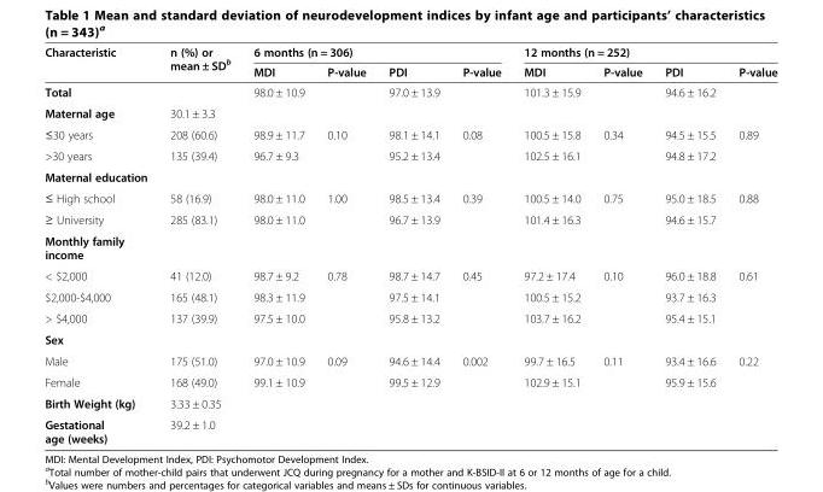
<table><thead><tr><td rowspan="2">Characteristic</td><td rowspan="2">n (%) or mean ± SD<sup>b</sup></td><td colspan="4">6 months (n = 306)</td><td colspan="4">12 months (n = 252)</td></tr><tr><td>MDI</td><td>P-value</td><td>PDI</td><td>P-value</td><td>MDI</td><td>P-value</td><td>PDI</td><td>P-value</td></tr></thead><tbody><tr><td>Total</td><td></td><td>98.0 ± 10.9</td><td></td><td>97.0 ± 13.9</td><td></td><td>101.3 ± 15.9</td><td></td><td>94.6 ± 16.2</td><td></td></tr><tr><td>Maternal age</td><td>30.1 ± 3.3</td><td></td><td></td><td></td><td></td><td></td><td></td><td></td><td></td></tr><tr><td>≤30 years</td><td>208 (60.6)</td><td>98.9 ± 11.7</td><td>0.10</td><td>98.1 ± 14.1</td><td>0.08</td><td>100.5 ± 15.8</td><td>0.34</td><td>94.5 ± 15.5</td><td>0.89</td></tr><tr><td>&gt;30 years</td><td>135 (39.4)</td><td>96.7 ± 9.3</td><td></td><td>95.2 ± 13.4</td><td></td><td>102.5 ± 16.1</td><td></td><td>94.8 ± 17.2</td><td></td></tr><tr><td colspan="10">Maternal education</td></tr><tr><td>≤ High school</td><td>58 (16.9)</td><td>98.0 ± 11.0</td><td>1.00</td><td>98.5 ± 13.4</td><td>0.39</td><td>100.5 ± 14.0</td><td>0.75</td><td>95.0 ± 18.5</td><td>0.88</td></tr><tr><td>≥ University</td><td>285 (83.1)</td><td>98.0 ± 11.0</td><td></td><td>96.7 ± 13.9</td><td></td><td>101.4 ± 16.3</td><td></td><td>94.6 ± 15.7</td><td></td></tr><tr><td colspan="10">Monthly family income</td></tr><tr><td>&lt; $2,000</td><td>41 (12.0)</td><td>98.7 ± 9.2</td><td>0.78</td><td>98.7 ± 14.7</td><td>0.45</td><td>97.2 ± 17.4</td><td>0.10</td><td>96.0 ± 18.8</td><td>0.61</td></tr><tr><td>$2,000-$4,000</td><td>165 (48.1)</td><td>98.3 ± 11.9</td><td></td><td>97.5 ± 14.1</td><td></td><td>100.5 ± 15.2</td><td></td><td>93.7 ± 16.3</td><td></td></tr><tr><td>&gt; $4,000</td><td>137 (39.9)</td><td>97.5 ± 10.0</td><td></td><td>95.8 ± 13.2</td><td></td><td>103.7 ± 16.2</td><td></td><td>95.4 ± 15.1</td><td></td></tr><tr><td colspan="10">Sex</td></tr><tr><td>Male</td><td>175 (51.0)</td><td>97.0 ± 10.9</td><td>0.09</td><td>94.6 ± 14.4</td><td>0.002</td><td>99.7 ± 16.5</td><td>0.11</td><td>93.4 ± 16.6</td><td>0.22</td></tr><tr><td>Female</td><td>168 (49.0)</td><td>99.1 ± 10.9</td><td></td><td>99.5 ± 12.9</td><td></td><td>102.9 ± 15.1</td><td></td><td>95.9 ± 15.6</td><td></td></tr><tr><td>Birth Weight (kg)</td><td>3.33 ± 0.35</td><td></td><td></td><td></td><td></td><td></td><td></td><td></td><td></td></tr><tr><td>Gestational age (weeks)</td><td>39.2 ± 1.0</td><td></td><td></td><td></td><td></td><td></td><td></td><td></td><td></td></tr></tbody></table>